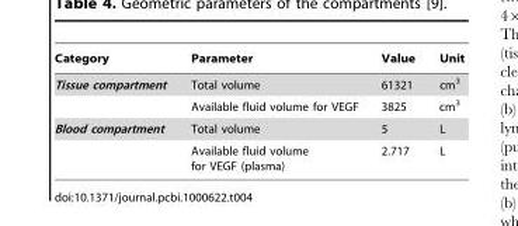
<table><thead><tr><td>Category</td><td>Parameter</td><td>Value</td><td>Unit</td></tr></thead><tbody><tr><td rowspan="2">Tissue compartment</td><td>Total volume</td><td>61321</td><td>cm<sup>3</sup></td></tr><tr><td>Available fluid volume for VEGF</td><td>3825</td><td>cm<sup>3</sup></td></tr><tr><td rowspan="2">Blood compartment</td><td>Total volume</td><td>5</td><td>L</td></tr><tr><td>Available fluid volume for VEGF (plasma)</td><td>2.717</td><td>L</td></tr></tbody></table>